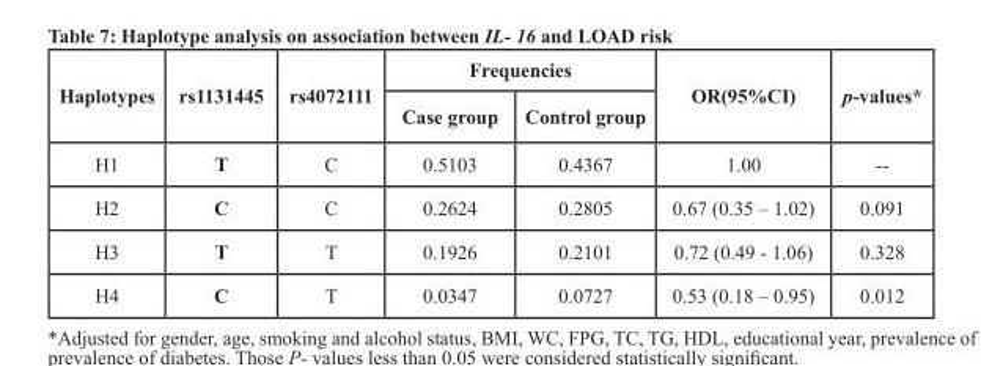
<table><thead><tr><td rowspan="2">Haplotypes</td><td rowspan="2">rs1131445</td><td rowspan="2">rs4072111</td><td colspan="2">Frequencies</td><td rowspan="2">OR(95%CI)</td><td rowspan="2">p-values*</td></tr><tr><td>Case group</td><td>Control group</td></tr></thead><tbody><tr><td>H1</td><td>T</td><td>C</td><td>0.5103</td><td>0.4367</td><td>1.00</td><td>--</td></tr><tr><td>H2</td><td>C</td><td>C</td><td>0.2624</td><td>0.2805</td><td>0.67 (0.35 – 1.02)</td><td>0.091</td></tr><tr><td>H3</td><td>T</td><td>T</td><td>0.1926</td><td>0.2101</td><td>0.72 (0.49 - 1.06)</td><td>0.328</td></tr><tr><td>H4</td><td>C</td><td>T</td><td>0.0347</td><td>0.0727</td><td>0.53 (0.18 – 0.95)</td><td>0.012</td></tr></tbody></table>